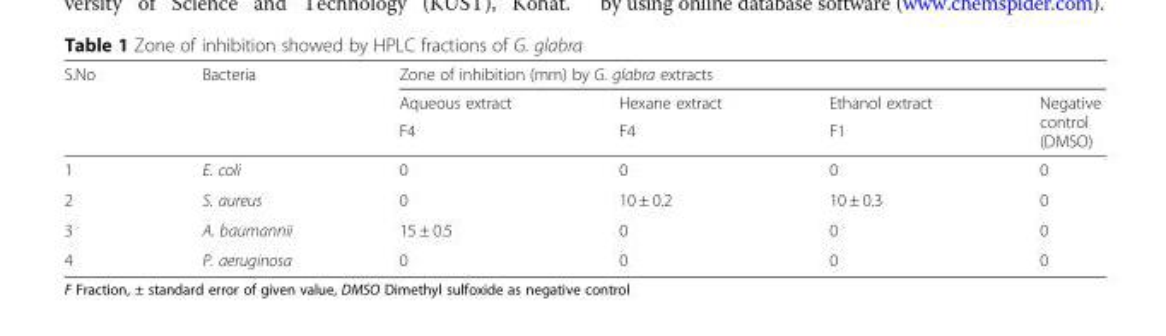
<table><thead><tr><td rowspan="3">S.No</td><td rowspan="3">Bacteria</td><td colspan="4">Zone of inhibition (mm) by G. glabra extracts</td></tr><tr><td rowspan="2">Aqueous extract F4</td><td rowspan="2">Hexane extract F4</td><td rowspan="2">Ethanol extract F1</td><td rowspan="2">Negative control (DMSO)</td></tr><tr></tr></thead><tbody><tr><td>1</td><td>E. coli</td><td>0</td><td>0</td><td>0</td><td>0</td></tr><tr><td>2</td><td>S. aureus</td><td>0</td><td>10 ± 0.2</td><td>10 ± 0.3</td><td>0</td></tr><tr><td>3</td><td>A. baumannii</td><td>15 ± 0.5</td><td>0</td><td>0</td><td>0</td></tr><tr><td>4</td><td>P. aeruginosa</td><td>0</td><td>0</td><td>0</td><td>0</td></tr></tbody></table>